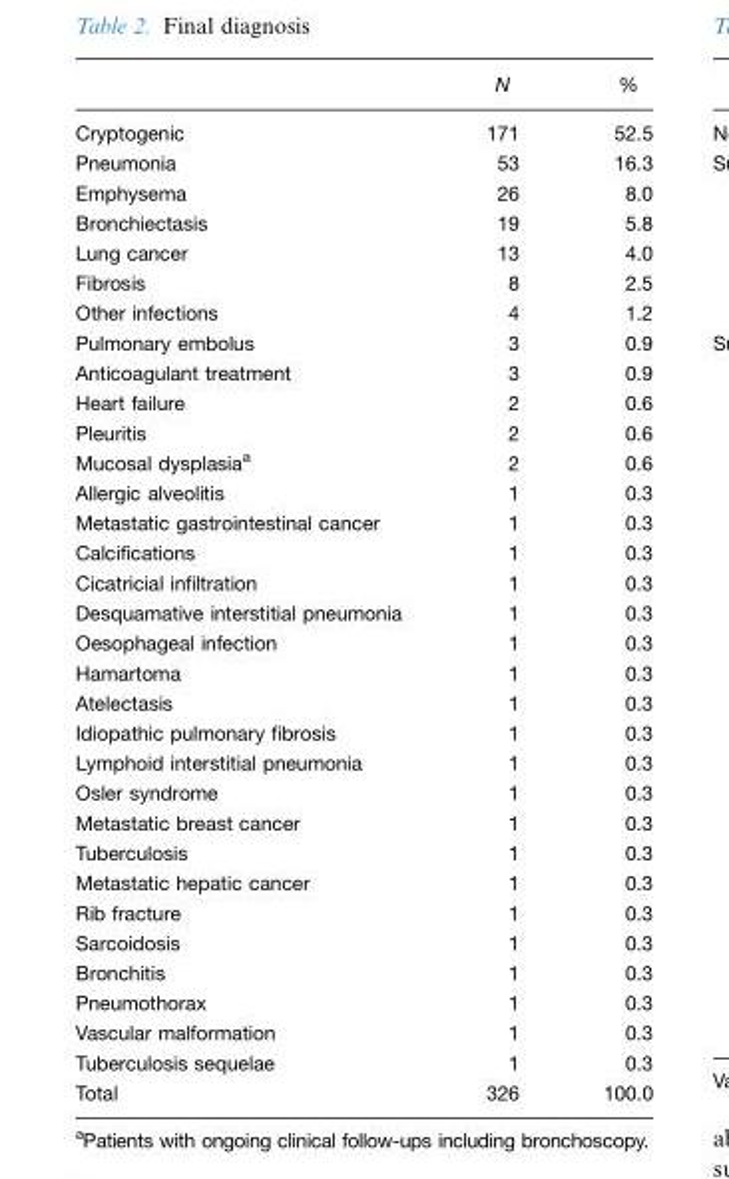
<table><thead><tr><td></td><td>N</td><td>%</td></tr></thead><tbody><tr><td>Cryptogenic</td><td>171</td><td>52.5</td></tr><tr><td>Pneumonia</td><td>53</td><td>16.3</td></tr><tr><td>Emphysema</td><td>26</td><td>8.0</td></tr><tr><td>Bronchiectasis</td><td>19</td><td>5.8</td></tr><tr><td>Lung cancer</td><td>13</td><td>4.0</td></tr><tr><td>Fibrosis</td><td>8</td><td>2.5</td></tr><tr><td>Other infections</td><td>4</td><td>1.2</td></tr><tr><td>Pulmonary embolus</td><td>3</td><td>0.9</td></tr><tr><td>Anticoagulant treatment</td><td>3</td><td>0.9</td></tr><tr><td>Heart failure</td><td>2</td><td>0.6</td></tr><tr><td>Pleuritis</td><td>2</td><td>0.6</td></tr><tr><td>Mucosal dysplasia<sup>a</sup></td><td>2</td><td>0.6</td></tr><tr><td>Allergic alveolitis</td><td>1</td><td>0.3</td></tr><tr><td>Metastatic gastrointestinal cancer</td><td>1</td><td>0.3</td></tr><tr><td>Calcifications</td><td>1</td><td>0.3</td></tr><tr><td>Cicatricial infiltration</td><td>1</td><td>0.3</td></tr><tr><td>Desquamative interstitial pneumonia</td><td>1</td><td>0.3</td></tr><tr><td>Oesophageal infection</td><td>1</td><td>0.3</td></tr><tr><td>Hamartoma</td><td>1</td><td>0.3</td></tr><tr><td>Atelectasis</td><td>1</td><td>0.3</td></tr><tr><td>Idiopathic pulmonary fibrosis</td><td>1</td><td>0.3</td></tr><tr><td>Lymphoid interstitial pneumonia</td><td>1</td><td>0.3</td></tr><tr><td>Osler syndrome</td><td>1</td><td>0.3</td></tr><tr><td>Metastatic breast cancer</td><td>1</td><td>0.3</td></tr><tr><td>Tuberculosis</td><td>1</td><td>0.3</td></tr><tr><td>Metastatic hepatic cancer</td><td>1</td><td>0.3</td></tr><tr><td>Rib fracture</td><td>1</td><td>0.3</td></tr><tr><td>Sarcoidosis</td><td>1</td><td>0.3</td></tr><tr><td>Bronchitis</td><td>1</td><td>0.3</td></tr><tr><td>Pneumothorax</td><td>1</td><td>0.3</td></tr><tr><td>Vascular malformation</td><td>1</td><td>0.3</td></tr><tr><td>Tuberculosis sequelae</td><td>1</td><td>0.3</td></tr><tr><td>Total</td><td>326</td><td>100.0</td></tr></tbody></table>